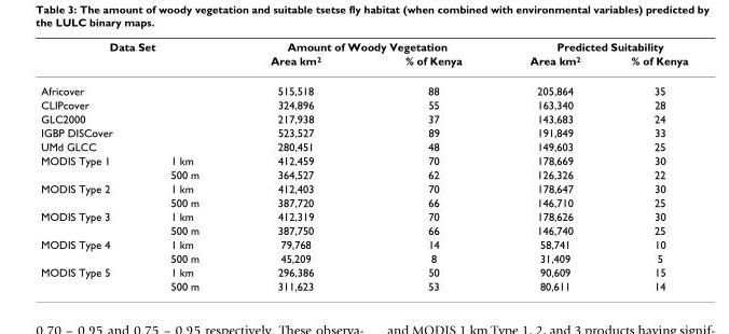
<table><thead><tr><td colspan="2">Data Set</td><td colspan="2">Amount of Woody Vegetation</td><td colspan="2">Predicted Suitability</td></tr><tr><td></td><td></td><td>Area km<sup>2</sup></td><td>% of Kenya</td><td>Area km<sup>2</sup></td><td>% of Kenya</td></tr></thead><tbody><tr><td colspan="2">Africover</td><td>515,518</td><td>88</td><td>205,864</td><td>35</td></tr><tr><td colspan="2">CLIPcover</td><td>324,896</td><td>55</td><td>163,340</td><td>28</td></tr><tr><td colspan="2">GLC2000</td><td>217,938</td><td>37</td><td>143,683</td><td>24</td></tr><tr><td colspan="2">IGBP DISCover</td><td>523,527</td><td>89</td><td>191,849</td><td>33</td></tr><tr><td colspan="2">UMd GLCC</td><td>280,451</td><td>48</td><td>149,603</td><td>25</td></tr><tr><td rowspan="2">MODIS Type 1</td><td>1 km</td><td>412,459</td><td>70</td><td>178,669</td><td>30</td></tr><tr><td>500 m</td><td>364,527</td><td>62</td><td>126,326</td><td>22</td></tr><tr><td rowspan="2">MODIS Type 2</td><td>1 km</td><td>412,403</td><td>70</td><td>178,647</td><td>30</td></tr><tr><td>500 m</td><td>387,720</td><td>66</td><td>146,710</td><td>25</td></tr><tr><td rowspan="2">MODIS Type 3</td><td>1 km</td><td>412,319</td><td>70</td><td>178,626</td><td>30</td></tr><tr><td>500 m</td><td>387,750</td><td>66</td><td>146,740</td><td>25</td></tr><tr><td rowspan="2">MODIS Type 4</td><td>1 km</td><td>79,768</td><td>14</td><td>58,741</td><td>10</td></tr><tr><td>500 m</td><td>45,209</td><td>8</td><td>31,409</td><td>5</td></tr><tr><td rowspan="2">MODIS Type 5</td><td>1 km</td><td>296,386</td><td>50</td><td>90,609</td><td>15</td></tr><tr><td>500 m</td><td>311,623</td><td>53</td><td>80,611</td><td>14</td></tr></tbody></table>